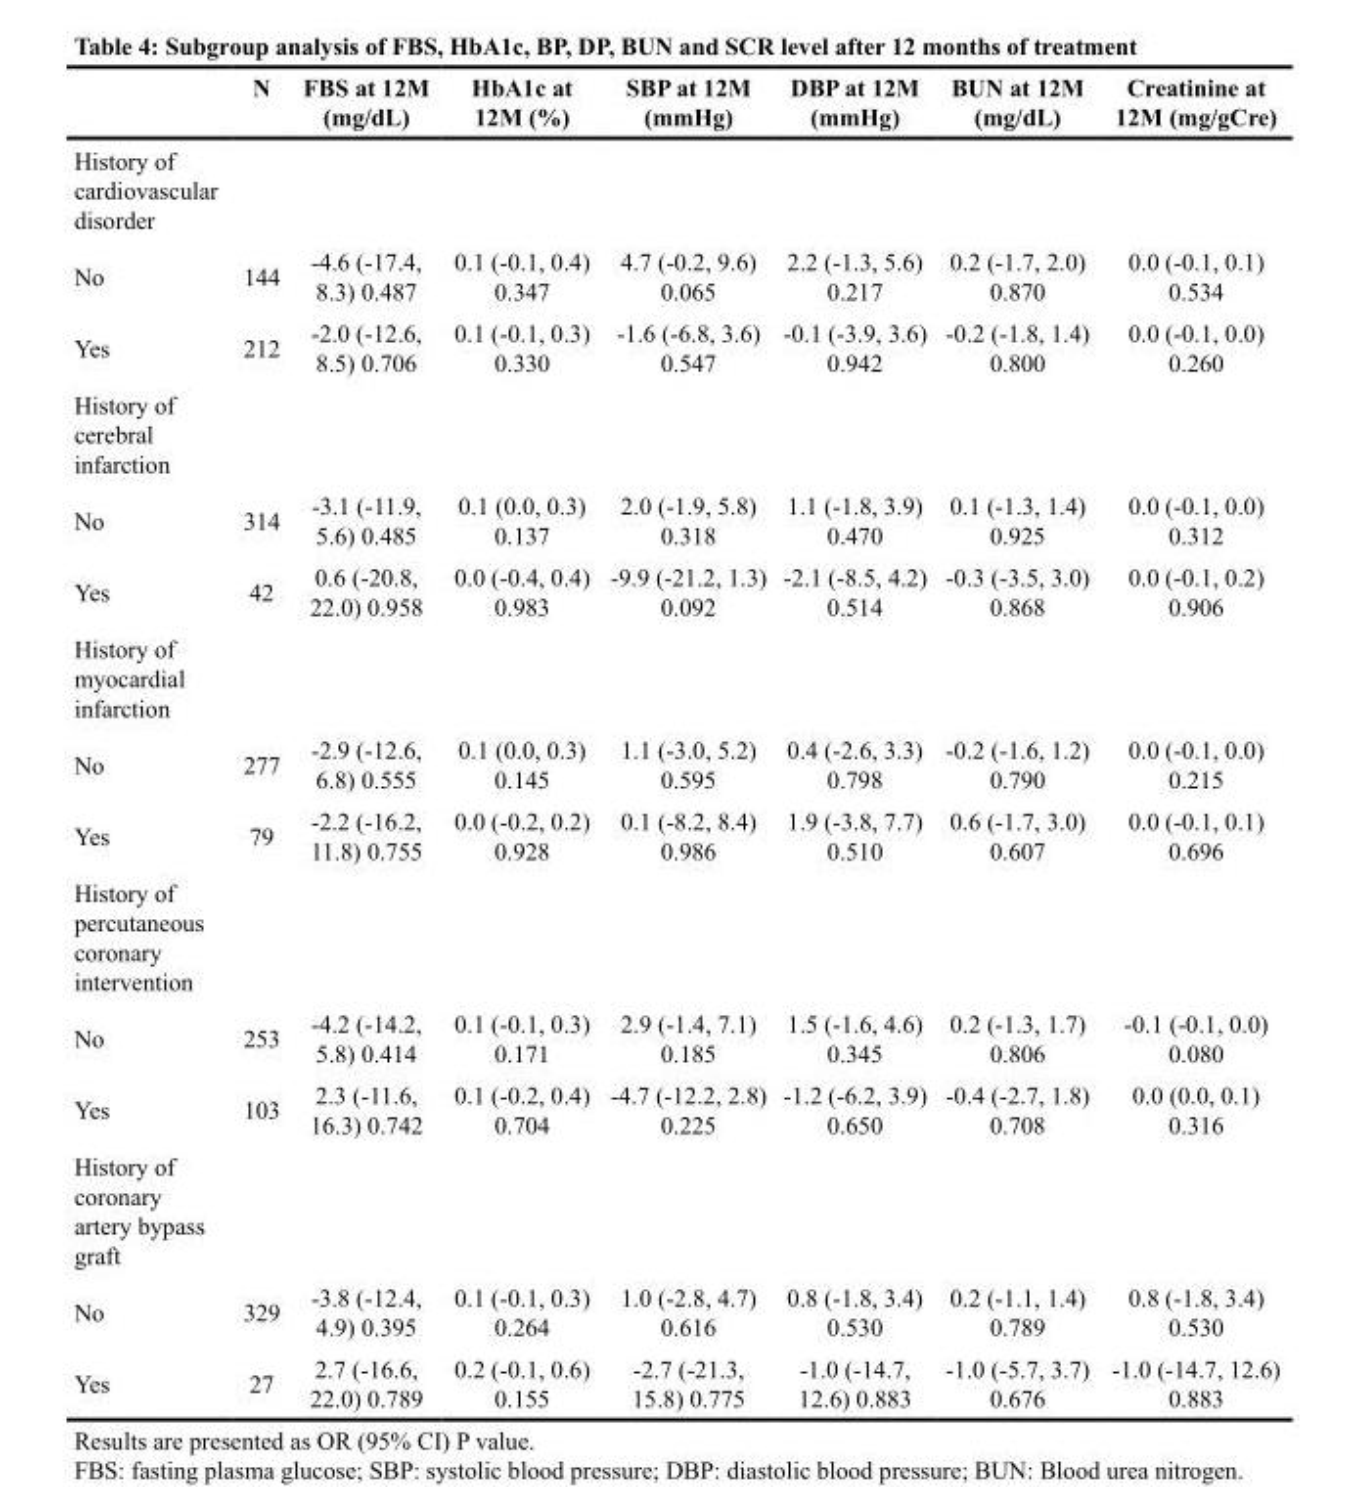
<table><thead><tr><td></td><td>N</td><td>FBS at 12M (mg/dL)</td><td>HbA1c at 12M (%)</td><td>SBP at 12M (mmHg)</td><td>DBP at 12M (mmHg)</td><td>BUN at 12M (mg/dL)</td><td>Creatinine at 12M (mg/gCre)</td></tr></thead><tbody><tr><td colspan="8">History of cardiovascular disorder</td></tr><tr><td>No</td><td>144</td><td>-4.6 (-17.4, 8.3) 0.487</td><td>0.1 (-0.1, 0.4) 0.347</td><td>4.7 (-0.2, 9.6) 0.065</td><td>2.2 (-1.3, 5.6) 0.217</td><td>0.2 (-1.7, 2.0) 0.870</td><td>0.0 (-0.1, 0.1) 0.534</td></tr><tr><td>Yes</td><td>212</td><td>-2.0 (-12.6, 8.5) 0.706</td><td>0.1 (-0.1, 0.3) 0.330</td><td>-1.6 (-6.8, 3.6) 0.547</td><td>-0.1 (-3.9, 3.6) 0.942</td><td>-0.2 (-1.8, 1.4) 0.800</td><td>0.0 (-0.1, 0.0) 0.260</td></tr><tr><td colspan="8">History of cerebral infarction</td></tr><tr><td>No</td><td>314</td><td>-3.1 (-11.9, 5.6) 0.485</td><td>0.1 (0.0, 0.3) 0.137</td><td>2.0 (-1.9, 5.8) 0.318</td><td>1.1 (-1.8, 3.9) 0.470</td><td>0.1 (-1.3, 1.4) 0.925</td><td>0.0 (-0.1, 0.0) 0.312</td></tr><tr><td>Yes</td><td>42</td><td>0.6 (-20.8, 22.0) 0.958</td><td>0.0 (-0.4, 0.4) 0.983</td><td>-9.9 (-21.2, 1.3) 0.092</td><td>-2.1 (-8.5, 4.2) 0.514</td><td>-0.3 (-3.5, 3.0) 0.868</td><td>0.0 (-0.1, 0.2) 0.906</td></tr><tr><td colspan="8">History of myocardial infarction</td></tr><tr><td>No</td><td>277</td><td>-2.9 (-12.6, 6.8) 0.555</td><td>0.1 (0.0, 0.3) 0.145</td><td>1.1 (-3.0, 5.2) 0.595</td><td>0.4 (-2.6, 3.3) 0.798</td><td>-0.2 (-1.6, 1.2) 0.790</td><td>0.0 (-0.1, 0.0) 0.215</td></tr><tr><td>Yes</td><td>79</td><td>-2.2 (-16.2, 11.8) 0.755</td><td>0.0 (-0.2, 0.2) 0.928</td><td>0.1 (-8.2, 8.4) 0.986</td><td>1.9 (-3.8, 7.7) 0.510</td><td>0.6 (-1.7, 3.0) 0.607</td><td>0.0 (-0.1, 0.1) 0.696</td></tr><tr><td colspan="8">History of percutaneous coronary intervention</td></tr><tr><td>No</td><td>253</td><td>-4.2 (-14.2, 5.8) 0.414</td><td>0.1 (-0.1, 0.3) 0.171</td><td>2.9 (-1.4, 7.1) 0.185</td><td>1.5 (-1.6, 4.6) 0.345</td><td>0.2 (-1.3, 1.7) 0.806</td><td>-0.1 (-0.1, 0.0) 0.080</td></tr><tr><td>Yes</td><td>103</td><td>2.3 (-11.6, 16.3) 0.742</td><td>0.1 (-0.2, 0.4) 0.704</td><td>-4.7 (-12.2, 2.8) 0.225</td><td>-1.2 (-6.2, 3.9) 0.650</td><td>-0.4 (-2.7, 1.8) 0.708</td><td>0.0 (0.0, 0.1) 0.316</td></tr><tr><td colspan="8">History of coronary artery bypass graft</td></tr><tr><td>No</td><td>329</td><td>-3.8 (-12.4, 4.9) 0.395</td><td>0.1 (-0.1, 0.3) 0.264</td><td>1.0 (-2.8, 4.7) 0.616</td><td>0.8 (-1.8, 3.4) 0.530</td><td>0.2 (-1.1, 1.4) 0.789</td><td>0.8 (-1.8, 3.4) 0.530</td></tr><tr><td>Yes</td><td>27</td><td>2.7 (-16.6, 22.0) 0.789</td><td>0.2 (-0.1, 0.6) 0.155</td><td>-2.7 (-21.3, 15.8) 0.775</td><td>-1.0 (-14.7, 12.6) 0.883</td><td>-1.0 (-5.7, 3.7) 0.676</td><td>-1.0 (-14.7, 12.6) 0.883</td></tr></tbody></table>